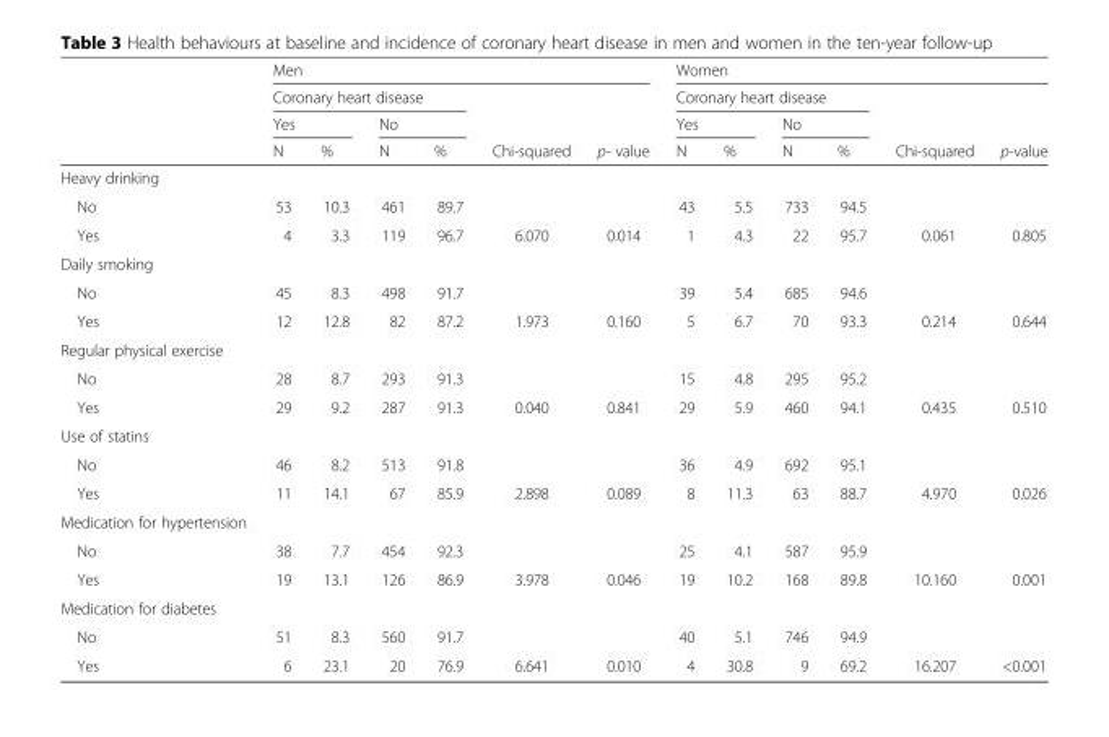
<table><thead><tr><td rowspan="4"></td><td colspan="6">Men</td><td colspan="6">Women</td></tr><tr><td colspan="4">Coronary heart disease</td><td rowspan="3">Chi-squared</td><td rowspan="3">p- value</td><td colspan="4">Coronary heart disease</td><td rowspan="3">Chi-squared</td><td rowspan="3">p-value</td></tr><tr><td colspan="2">Yes</td><td colspan="2">No</td><td colspan="2">Yes</td><td colspan="2">No</td></tr><tr><td>N</td><td>%</td><td>N</td><td>%</td><td>N</td><td>%</td><td>N</td><td>%</td></tr></thead><tbody><tr><td colspan="13">Heavy drinking</td></tr><tr><td>No</td><td>53</td><td>10.3</td><td>461</td><td>89.7</td><td></td><td></td><td>43</td><td>5.5</td><td>733</td><td>94.5</td><td></td><td></td></tr><tr><td>Yes</td><td>4</td><td>3.3</td><td>119</td><td>96.7</td><td>6.070</td><td>0.014</td><td>1</td><td>4.3</td><td>22</td><td>95.7</td><td>0.061</td><td>0.805</td></tr><tr><td colspan="13">Daily smoking</td></tr><tr><td>No</td><td>45</td><td>8.3</td><td>498</td><td>91.7</td><td></td><td></td><td>39</td><td>5.4</td><td>685</td><td>94.6</td><td></td><td></td></tr><tr><td>Yes</td><td>12</td><td>12.8</td><td>82</td><td>87.2</td><td>1.973</td><td>0.160</td><td>5</td><td>6.7</td><td>70</td><td>93.3</td><td>0.214</td><td>0.644</td></tr><tr><td colspan="13">Regular physical exercise</td></tr><tr><td>No</td><td>28</td><td>8.7</td><td>293</td><td>91.3</td><td></td><td></td><td>15</td><td>4.8</td><td>295</td><td>95.2</td><td></td><td></td></tr><tr><td>Yes</td><td>29</td><td>9.2</td><td>287</td><td>91.3</td><td>0.040</td><td>0.841</td><td>29</td><td>5.9</td><td>460</td><td>94.1</td><td>0.435</td><td>0.510</td></tr><tr><td colspan="13">Use of statins</td></tr><tr><td>No</td><td>46</td><td>8.2</td><td>513</td><td>91.8</td><td></td><td></td><td>36</td><td>4.9</td><td>692</td><td>95.1</td><td></td><td></td></tr><tr><td>Yes</td><td>11</td><td>14.1</td><td>67</td><td>85.9</td><td>2.898</td><td>0.089</td><td>8</td><td>11.3</td><td>63</td><td>88.7</td><td>4.970</td><td>0.026</td></tr><tr><td colspan="13">Medication for hypertension</td></tr><tr><td>No</td><td>38</td><td>7.7</td><td>454</td><td>92.3</td><td></td><td></td><td>25</td><td>4.1</td><td>587</td><td>95.9</td><td></td><td></td></tr><tr><td>Yes</td><td>19</td><td>13.1</td><td>126</td><td>86.9</td><td>3.978</td><td>0.046</td><td>19</td><td>10.2</td><td>168</td><td>89.8</td><td>10.160</td><td>0.001</td></tr><tr><td colspan="13">Medication for diabetes</td></tr><tr><td>No</td><td>51</td><td>8.3</td><td>560</td><td>91.7</td><td></td><td></td><td>40</td><td>5.1</td><td>746</td><td>94.9</td><td></td><td></td></tr><tr><td>Yes</td><td>6</td><td>23.1</td><td>20</td><td>76.9</td><td>6.641</td><td>0.010</td><td>4</td><td>30.8</td><td>9</td><td>69.2</td><td>16.207</td><td>&lt;0.001</td></tr></tbody></table>